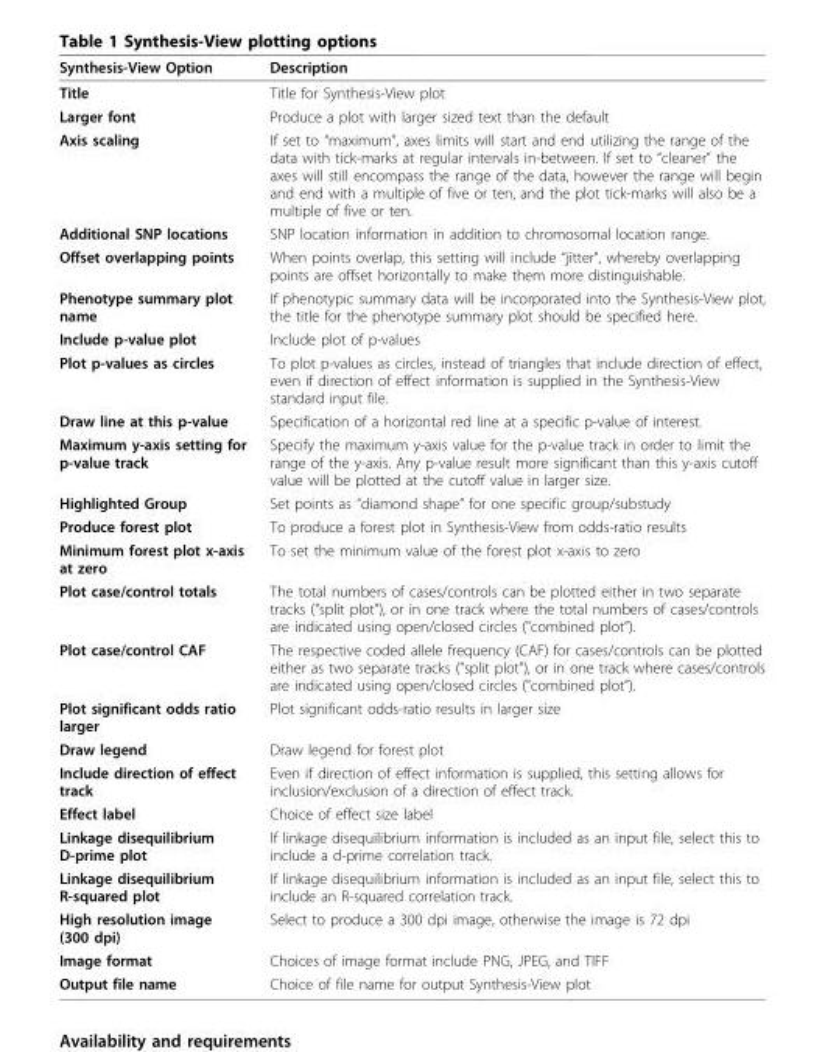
<table><thead><tr><td>Synthesis-View Option</td><td>Description</td></tr></thead><tbody><tr><td>Title</td><td>Title for Synthesis-View plot</td></tr><tr><td>Larger font</td><td>Produce a plot with larger sized text than the default</td></tr><tr><td>Axis scaling</td><td>If set to “maximum”, axes limits will start and end utilizing the range of the data with tick-marks at regular intervals in-between. If set to “cleaner” the axes will still encompass the range of the data, however the range will begin and end with a multiple of five or ten, and the plot tick-marks will also be a multiple of five or ten.</td></tr><tr><td>Additional SNP locations</td><td>SNP location information in addition to chromosomal location range.</td></tr><tr><td>Offset overlapping points</td><td>When points overlap, this setting will include “jitter”, whereby overlapping points are offset horizontally to make them more distinguishable.</td></tr><tr><td>Phenotype summary plot name</td><td>If phenotypic summary data will be incorporated into the Synthesis-View plot, the title for the phenotype summary plot should be specified here.</td></tr><tr><td>Include p-value plot</td><td>Include plot of p-values</td></tr><tr><td>Plot p-values as circles</td><td>To plot p-values as circles, instead of triangles that include direction of effect, even if direction of effect information is supplied in the Synthesis-View standard input file.</td></tr><tr><td>Draw line at this p-value</td><td>Specification of a horizontal red line at a specific p-value of interest.</td></tr><tr><td>Maximum y-axis setting for p-value track</td><td>Specify the maximum y-axis value for the p-value track in order to limit the range of the y-axis. Any p-value result more significant than this y-axis cutoff value will be plotted at the cutoff value in larger size.</td></tr><tr><td>Highlighted Group</td><td>Set points as “diamond shape” for one specific group/substudy</td></tr><tr><td>Produce forest plot</td><td>To produce a forest plot in Synthesis-View from odds-ratio results</td></tr><tr><td>Minimum forest plot x-axis at zero</td><td>To set the minimum value of the forest plot x-axis to zero</td></tr><tr><td>Plot case/control totals</td><td>The total numbers of cases/controls can be plotted either in two separate tracks (&quot;split plot”), or in one track where the total numbers of cases/controls are indicated using open/closed circles (&quot;combined plot”).</td></tr><tr><td>Plot case/control CAF</td><td>The respective coded allele frequency (CAF) for cases/controls can be plotted either as two separate tracks (&quot;split plot”), or in one track where cases/controls are indicated using open/closed circles (&quot;combined plot”).</td></tr><tr><td>Plot significant odds ratio larger</td><td>Plot significant odds-ratio results in larger size</td></tr><tr><td>Draw legend</td><td>Draw legend for forest plot</td></tr><tr><td>Include direction of effect track</td><td>Even if direction of effect information is supplied, this setting allows for inclusion/exclusion of a direction of effect track.</td></tr><tr><td>Effect label</td><td>Choice of effect size label</td></tr><tr><td>Linkage disequilibrium D-prime plot</td><td>If linkage disequilibrium information is included as an input file, select this to include a d-prime correlation track.</td></tr><tr><td>Linkage disequilibrium R-squared plot</td><td>If linkage disequilibrium information is included as an input file, select this to include an R-squared correlation track.</td></tr><tr><td>High resolution image (300 dpi)</td><td>Select to produce a 300 dpi image, otherwise the image is 72 dpi</td></tr><tr><td>Image format</td><td>Choices of image format include PNG, JPEG, and TIFF</td></tr><tr><td>Output file name</td><td>Choice of file name for output Synthesis-View plot</td></tr></tbody></table>